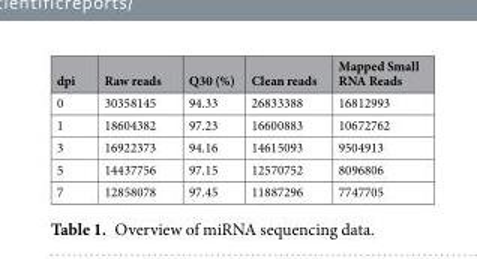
<table><thead><tr><td>dpi</td><td>Raw reads</td><td>Q30 (%)</td><td>Clean reads</td><td>Mapped Small RNA Reads</td></tr></thead><tbody><tr><td>0</td><td>30358145</td><td>94.33</td><td>26833388</td><td>16812993</td></tr><tr><td>1</td><td>18604382</td><td>97.23</td><td>16600883</td><td>10672762</td></tr><tr><td>3</td><td>16922373</td><td>94.16</td><td>14615093</td><td>9504913</td></tr><tr><td>5</td><td>14437756</td><td>97.15</td><td>12570752</td><td>8096806</td></tr><tr><td>7</td><td>12858078</td><td>97.45</td><td>11887296</td><td>7747705</td></tr></tbody></table>